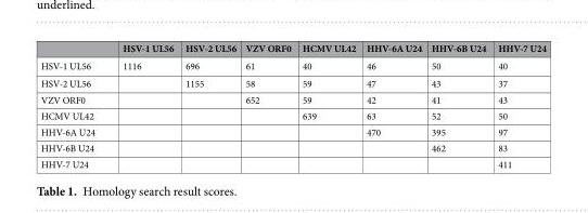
<table><thead><tr><td></td><td>HSV-1 UL56</td><td>HSV-2 UL56</td><td>VZV ORF0</td><td>HCMV UL42</td><td>HHV-6A U24</td><td>HHV-6B U24</td><td>HHV-7 U24</td></tr></thead><tbody><tr><td>HSV-1 UL56</td><td>1116</td><td>696</td><td>61</td><td>40</td><td>46</td><td>50</td><td>40</td></tr><tr><td>HSV-2 UL56</td><td></td><td>1155</td><td>58</td><td>59</td><td>47</td><td>43</td><td>37</td></tr><tr><td>VZV ORF0</td><td></td><td></td><td>652</td><td>59</td><td>42</td><td>41</td><td>43</td></tr><tr><td>HCMV UL42</td><td></td><td></td><td></td><td>639</td><td>63</td><td>52</td><td>50</td></tr><tr><td>HHV-6A U24</td><td></td><td></td><td></td><td></td><td>470</td><td>395</td><td>97</td></tr><tr><td>HHV-6B U24</td><td></td><td></td><td></td><td></td><td></td><td>462</td><td>83</td></tr><tr><td>HHV-7 U24</td><td></td><td></td><td></td><td></td><td></td><td></td><td>411</td></tr></tbody></table>